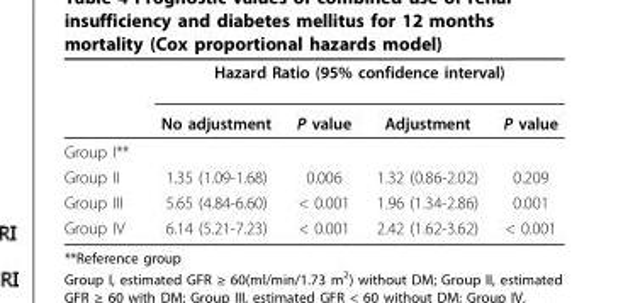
<table><thead><tr><td rowspan="2"></td><td colspan="4">Hazard Ratio (95% confidence interval)</td></tr><tr><td>No adjustment</td><td>P value</td><td>Adjustment</td><td>P value</td></tr></thead><tbody><tr><td colspan="5">Group I**</td></tr><tr><td>Group II</td><td>1.35 (1.09-1.68)</td><td>0.006</td><td>1.32 (0.86-2.02)</td><td>0.209</td></tr><tr><td>Group III</td><td>5.65 (4.84-6.60)</td><td>&lt; 0.001</td><td>1.96 (1.34-2.86)</td><td>0.001</td></tr><tr><td>Group IV</td><td>6.14 (5.21-7.23)</td><td>&lt; 0.001</td><td>2.42 (1.62-3.62)</td><td>&lt; 0.001</td></tr></tbody></table>